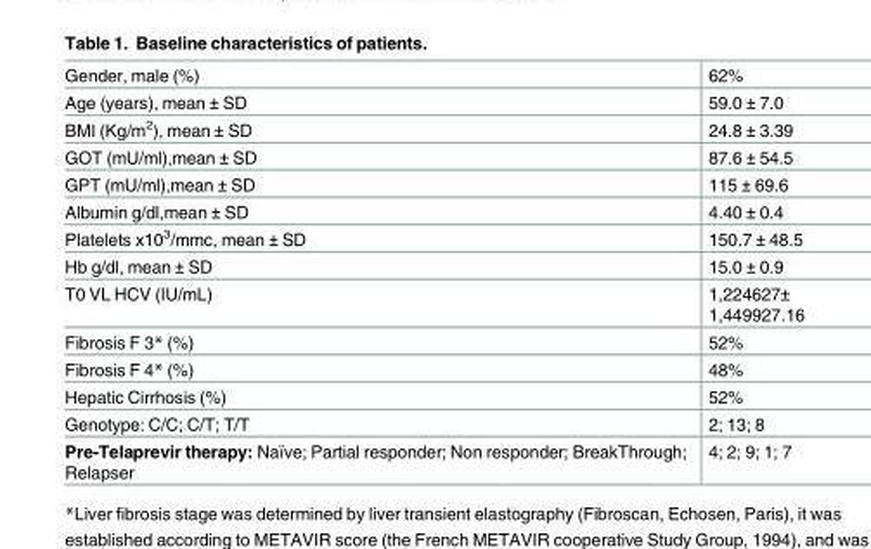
<table><tbody><tr><td>Gender, male (%)</td><td>62%</td></tr><tr><td>Age (years), mean ± SD</td><td>59.0 ± 7.0</td></tr><tr><td>BMI (Kg/m<sup>2</sup>), mean ± SD</td><td>24.8 ± 3.39</td></tr><tr><td>GOT (mU/ml),mean ± SD</td><td>87.6 ± 54.5</td></tr><tr><td>GPT (mU/ml),mean ± SD</td><td>115 ± 69.6</td></tr><tr><td>Albumin g/dl,mean ± SD</td><td>4.40 ± 0.4</td></tr><tr><td>Platelets x10<sup>3</sup>/mmc, mean ± SD</td><td>150.7 ± 48.5</td></tr><tr><td>Hb g/dl, mean ± SD</td><td>15.0 ± 0.9</td></tr><tr><td>T0 VL HCV (IU/mL)</td><td>1,224627± 1,449927.16</td></tr><tr><td>Fibrosis F 3* (%)</td><td>52%</td></tr><tr><td>Fibrosis F 4* (%)</td><td>48%</td></tr><tr><td>Hepatic Cirrhosis (%)</td><td>52%</td></tr><tr><td>Genotype: C/C; C/T; T/T</td><td>2; 13; 8</td></tr><tr><td>Pre-Telaprevir therapy: Naïve; Partial responder; Non responder; BreakThrough; Relapser</td><td>4; 2; 9; 1; 7</td></tr></tbody></table>